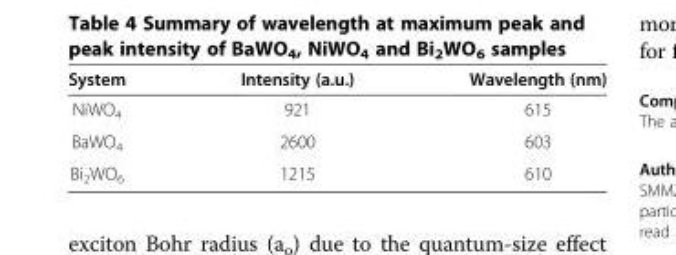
<table><thead><tr><td>System</td><td>Intensity (a.u.)</td><td>Wavelength (nm)</td></tr></thead><tbody><tr><td>NiWO<sub>4</sub></td><td>921</td><td>615</td></tr><tr><td>BaWO<sub>4</sub></td><td>2600</td><td>603</td></tr><tr><td>Bi<sub>2</sub>WO<sub>6</sub></td><td>1215</td><td>610</td></tr></tbody></table>